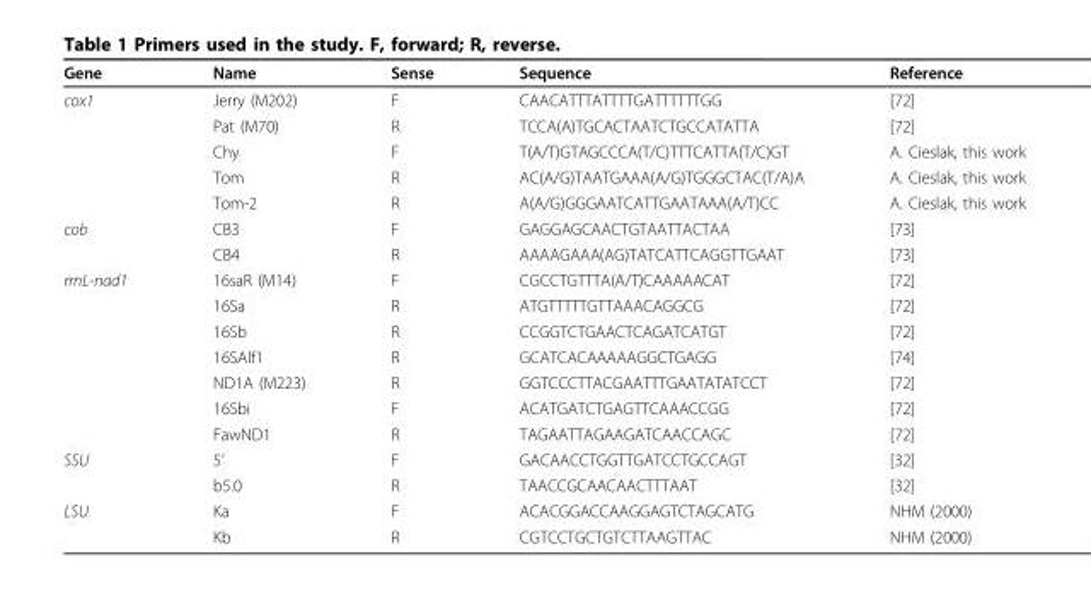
<table><thead><tr><td>Gene</td><td>Name</td><td>Sense</td><td>Sequence</td><td>Reference</td></tr></thead><tbody><tr><td rowspan="5">cox1</td><td>Jerry (M202)</td><td>F</td><td>CAACATTTATTTTGATTTTTTGG</td><td>[72]</td></tr><tr><td>Pat (M70)</td><td>R</td><td>TCCA(A)TGCACTAATCTGCCATATTA</td><td>[72]</td></tr><tr><td>Chy</td><td>F</td><td>T(A/T)GTAGCCCA(T/C)TTTCATTA(T/C)GT</td><td>A. Cieslak, this work</td></tr><tr><td>Tom</td><td>R</td><td>AC(A/G)TAATGAAA(A/G)TGGGCTAC(T/A)A</td><td>A. Cieslak, this work</td></tr><tr><td>Tom-2</td><td>R</td><td>A(A/G)GGGAATCATTGAATAAA(A/T)CC</td><td>A. Cieslak, this work</td></tr><tr><td rowspan="2">cob</td><td>CB3</td><td>F</td><td>GAGGAGCAACTGTAATTACTAA</td><td>[73]</td></tr><tr><td>CB4</td><td>R</td><td>AAAAGAAA(AG)TATCATTCAGGTTGAAT</td><td>[73]</td></tr><tr><td rowspan="7">rrnL-nad1</td><td>16saR (M14)</td><td>F</td><td>CGCCTGTTTA(A/T)CAAAAACAT</td><td>[72]</td></tr><tr><td>16Sa</td><td>R</td><td>ATGTTTTTGTTAAACAGGCG</td><td>[72]</td></tr><tr><td>16Sb</td><td>R</td><td>CCGGTCTGAACTCAGATCATGT</td><td>[72]</td></tr><tr><td>16SAlf1</td><td>R</td><td>GCATCACAAAAAGGCTGAGG</td><td>[74]</td></tr><tr><td>ND1A (M223)</td><td>R</td><td>GGTCCCTTACGAATTTGAATATATCCT</td><td>[72]</td></tr><tr><td>16Sbi</td><td>F</td><td>ACATGATCTGAGTTCAAACCGG</td><td>[72]</td></tr><tr><td>FawND1</td><td>R</td><td>TAGAATTAGAAGATCAACCAGC</td><td>[72]</td></tr><tr><td rowspan="2">SSU</td><td>5’</td><td>F</td><td>GACAACCTGGTTGATCCTGCCAGT</td><td>[32]</td></tr><tr><td>b5.0</td><td>R</td><td>TAACCGCAACAACTTTAAT</td><td>[32]</td></tr><tr><td rowspan="2">LSU</td><td>Ka</td><td>F</td><td>ACACGGACCAAGGAGTCTAGCATG</td><td>NHM (2000)</td></tr><tr><td>Kb</td><td>R</td><td>CGTCCTGCTGTCTTAAGTTAC</td><td>NHM (2000)</td></tr></tbody></table>